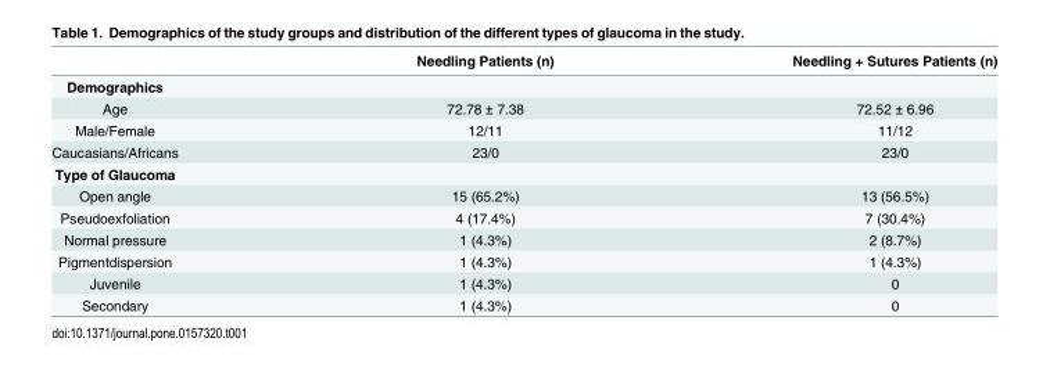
<table><thead><tr><td></td><td>Needling Patients (n)</td><td>Needling + Sutures Patients (n)</td></tr></thead><tbody><tr><td colspan="3">Demographics</td></tr><tr><td>Age</td><td>72.78 ± 7.38</td><td>72.52 ± 6.96</td></tr><tr><td>Male/Female</td><td>12/11</td><td>11/12</td></tr><tr><td>Caucasians/Africans</td><td>23/0</td><td>23/0</td></tr><tr><td colspan="3">Type of Glaucoma</td></tr><tr><td>Open angle</td><td>15 (65.2%)</td><td>13 (56.5%)</td></tr><tr><td>Pseudoexfoliation</td><td>4 (17.4%)</td><td>7 (30.4%)</td></tr><tr><td>Normal pressure</td><td>1 (4.3%)</td><td>2 (8.7%)</td></tr><tr><td>Pigmentdispersion</td><td>1 (4.3%)</td><td>1 (4.3%)</td></tr><tr><td>Juvenile</td><td>1 (4.3%)</td><td>0</td></tr><tr><td>Secondary</td><td>1 (4.3%)</td><td>0</td></tr></tbody></table>